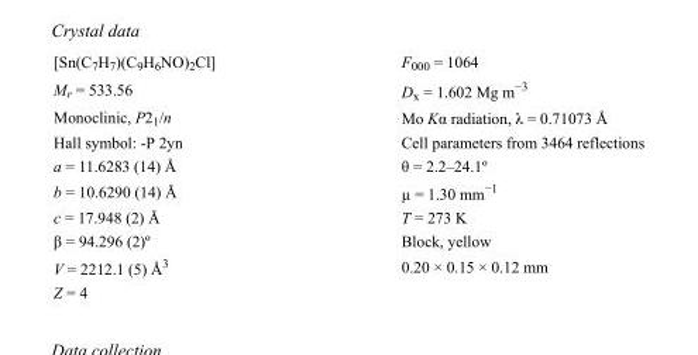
<table><tbody><tr><td>[Sn(C<sub>7</sub>H<sub>7</sub>)(C<sub>9</sub>H<sub>6</sub>NO)<sub>2</sub>Cl]</td><td>F000 = 1064</td></tr><tr><td>M<sub>r</sub> = 533.56</td><td>D<sub>x</sub> = 1.602 Mg m<sup>−3</sup></td></tr><tr><td>Monoclinic, P2<sub>1</sub>/n</td><td>Mo Kα radiation, λ = 0.71073 Å</td></tr><tr><td>Hall symbol: -P 2yn</td><td>Cell parameters from 3464 reflections</td></tr><tr><td>a = 11.6283 (14) Å</td><td>θ = 2.2–24.1º</td></tr><tr><td>b = 10.6290 (14) Å</td><td>µ = 1.30 mm<sup>−1</sup></td></tr><tr><td>c = 17.948 (2) Å</td><td>T = 273 K</td></tr><tr><td>β = 94.296 (2)º</td><td>Block, yellow</td></tr><tr><td>V = 2212.1 (5) Å<sup>3</sup></td><td>0.20 × 0.15 × 0.12 mm</td></tr><tr><td>Z = 4</td><td></td></tr></tbody></table>